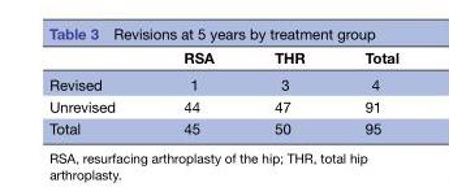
<table><thead><tr><td></td><td>RSA</td><td>THR</td><td>Total</td></tr></thead><tbody><tr><td>Revised</td><td>1</td><td>3</td><td>4</td></tr><tr><td>Unrevised</td><td>44</td><td>47</td><td>91</td></tr><tr><td>Total</td><td>45</td><td>50</td><td>95</td></tr></tbody></table>